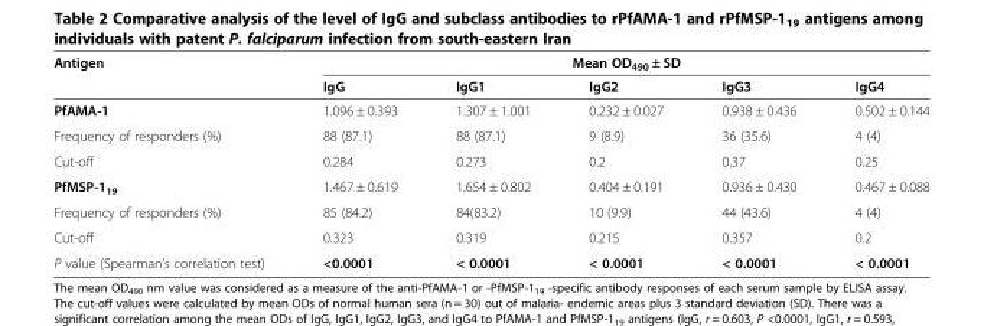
<table><thead><tr><td rowspan="2">Antigen</td><td colspan="5">Mean OD<sub>490</sub> ± SD</td></tr><tr><td>IgG</td><td>IgG1</td><td>IgG2</td><td>IgG3</td><td>IgG4</td></tr></thead><tbody><tr><td>PfAMA-1</td><td>1.096 ± 0.393</td><td>1.307 ± 1.001</td><td>0.232 ± 0.027</td><td>0.938 ± 0.436</td><td>0.502 ± 0.144</td></tr><tr><td>Frequency of responders (%)</td><td>88 (87.1)</td><td>88 (87.1)</td><td>9 (8.9)</td><td>36 (35.6)</td><td>4 (4)</td></tr><tr><td>Cut-off</td><td>0.284</td><td>0.273</td><td>0.2</td><td>0.37</td><td>0.25</td></tr><tr><td>PfMSP-1<sub>19</sub></td><td>1.467 ± 0.619</td><td>1.654 ± 0.802</td><td>0.404 ± 0.191</td><td>0.936 ± 0.430</td><td>0.467 ± 0.088</td></tr><tr><td>Frequency of responders (%)</td><td>85 (84.2)</td><td>84(83.2)</td><td>10 (9.9)</td><td>44 (43.6)</td><td>4 (4)</td></tr><tr><td>Cut-off</td><td>0.323</td><td>0.319</td><td>0.215</td><td>0.357</td><td>0.2</td></tr><tr><td>P value (Spearman’s correlation test)</td><td>&lt;0.0001</td><td>&lt; 0.0001</td><td>&lt; 0.0001</td><td>&lt; 0.0001</td><td>&lt; 0.0001</td></tr></tbody></table>